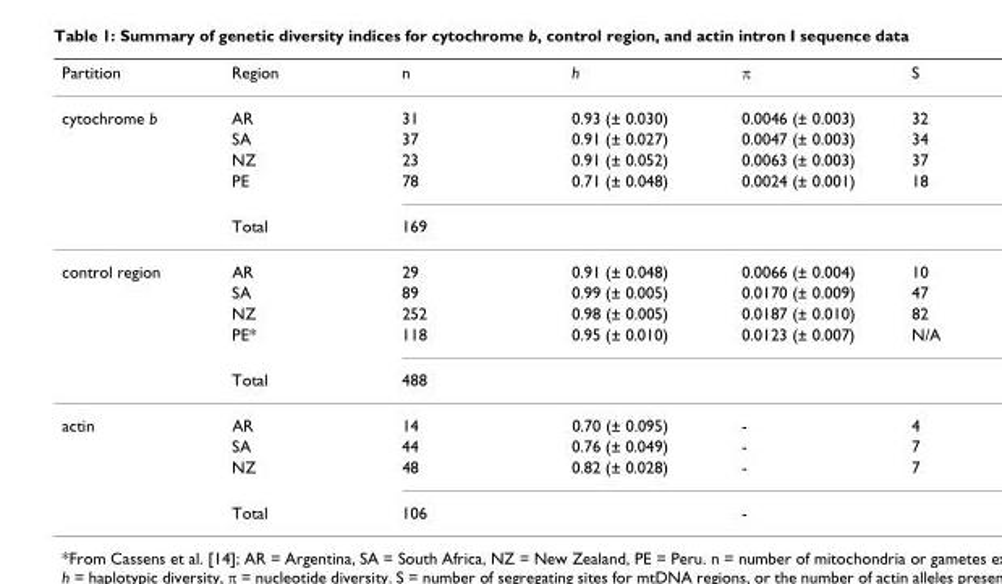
<table><thead><tr><td>Partition</td><td>Region</td><td>n</td><td>h</td><td>π</td><td>S</td></tr></thead><tbody><tr><td rowspan="5">cytochrome b</td><td>AR</td><td>31</td><td>0.93 (± 0.030)</td><td>0.0046 (± 0.003)</td><td>32</td></tr><tr><td>SA</td><td>37</td><td>0.91 (± 0.027)</td><td>0.0047 (± 0.003)</td><td>34</td></tr><tr><td>NZ</td><td>23</td><td>0.91 (± 0.052)</td><td>0.0063 (± 0.003)</td><td>37</td></tr><tr><td>PE</td><td>78</td><td>0.71 (± 0.048)</td><td>0.0024 (± 0.001)</td><td>18</td></tr><tr><td>Total</td><td>169</td><td></td><td></td><td></td></tr><tr><td rowspan="5">control region</td><td>AR</td><td>29</td><td>0.91 (± 0.048)</td><td>0.0066 (± 0.004)</td><td>10</td></tr><tr><td>SA</td><td>89</td><td>0.99 (± 0.005)</td><td>0.0170 (± 0.009)</td><td>47</td></tr><tr><td>NZ</td><td>252</td><td>0.98 (± 0.005)</td><td>0.0187 (± 0.010)</td><td>82</td></tr><tr><td>PE*</td><td>118</td><td>0.95 (± 0.010)</td><td>0.0123 (± 0.007)</td><td>N/A</td></tr><tr><td>Total</td><td>488</td><td></td><td></td><td></td></tr><tr><td rowspan="4">actin</td><td>AR</td><td>14</td><td>0.70 (± 0.095)</td><td>-</td><td>4</td></tr><tr><td>SA</td><td>44</td><td>0.76 (± 0.049)</td><td>-</td><td>7</td></tr><tr><td>NZ</td><td>48</td><td>0.82 (± 0.028)</td><td>-</td><td>7</td></tr><tr><td>Total</td><td>106</td><td></td><td>-</td><td></td></tr></tbody></table>